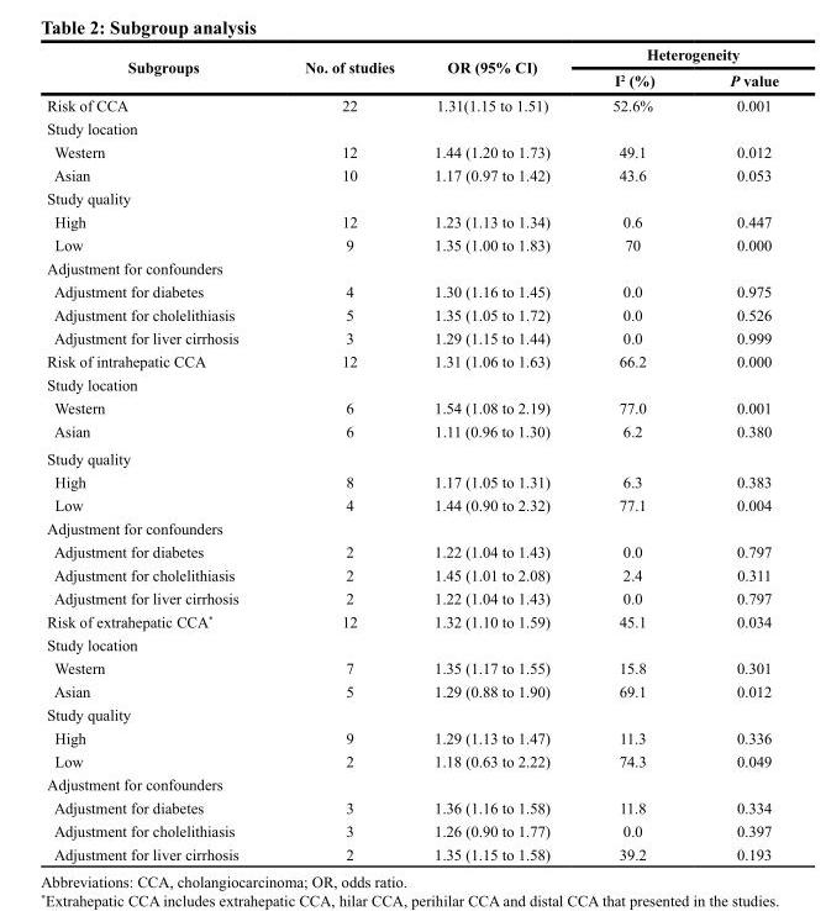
<table><thead><tr><td rowspan="2">Subgroups</td><td rowspan="2">No. of studies</td><td rowspan="2">OR (95% CI)</td><td colspan="2">Heterogeneity</td></tr><tr><td>I<sup>2</sup> (%)</td><td>P value</td></tr></thead><tbody><tr><td>Risk of CCA</td><td>22</td><td>1.31(1.15 to 1.51)</td><td>52.6%</td><td>0.001</td></tr><tr><td colspan="5">Study location</td></tr><tr><td>Western</td><td>12</td><td>1.44 (1.20 to 1.73)</td><td>49.1</td><td>0.012</td></tr><tr><td>Asian</td><td>10</td><td>1.17 (0.97 to 1.42)</td><td>43.6</td><td>0.053</td></tr><tr><td colspan="5">Study quality</td></tr><tr><td>High</td><td>12</td><td>1.23 (1.13 to 1.34)</td><td>0.6</td><td>0.447</td></tr><tr><td>Low</td><td>9</td><td>1.35 (1.00 to 1.83)</td><td>70</td><td>0.000</td></tr><tr><td colspan="5">Adjustment for confounders</td></tr><tr><td>Adjustment for diabetes</td><td>4</td><td>1.30 (1.16 to 1.45)</td><td>0.0</td><td>0.975</td></tr><tr><td>Adjustment for cholelithiasis</td><td>5</td><td>1.35 (1.05 to 1.72)</td><td>0.0</td><td>0.526</td></tr><tr><td>Adjustment for liver cirrhosis</td><td>3</td><td>1.29 (1.15 to 1.44)</td><td>0.0</td><td>0.999</td></tr><tr><td>Risk of intrahepatic CCA</td><td>12</td><td>1.31 (1.06 to 1.63)</td><td>66.2</td><td>0.000</td></tr><tr><td colspan="5">Study location</td></tr><tr><td>Western</td><td>6</td><td>1.54 (1.08 to 2.19)</td><td>77.0</td><td>0.001</td></tr><tr><td>Asian</td><td>6</td><td>1.11 (0.96 to 1.30)</td><td>6.2</td><td>0.380</td></tr><tr><td colspan="5">Study quality</td></tr><tr><td>High</td><td>8</td><td>1.17 (1.05 to 1.31)</td><td>6.3</td><td>0.383</td></tr><tr><td>Low</td><td>4</td><td>1.44 (0.90 to 2.32)</td><td>77.1</td><td>0.004</td></tr><tr><td colspan="5">Adjustment for confounders</td></tr><tr><td>Adjustment for diabetes</td><td>2</td><td>1.22 (1.04 to 1.43)</td><td>0.0</td><td>0.797</td></tr><tr><td>Adjustment for cholelithiasis</td><td>2</td><td>1.45 (1.01 to 2.08)</td><td>2.4</td><td>0.311</td></tr><tr><td>Adjustment for liver cirrhosis</td><td>2</td><td>1.22 (1.04 to 1.43)</td><td>0.0</td><td>0.797</td></tr><tr><td>Risk of extrahepatic CCA*</td><td>12</td><td>1.32 (1.10 to 1.59)</td><td>45.1</td><td>0.034</td></tr><tr><td colspan="5">Study location</td></tr><tr><td>Western</td><td>7</td><td>1.35 (1.17 to 1.55)</td><td>15.8</td><td>0.301</td></tr><tr><td>Asian</td><td>5</td><td>1.29 (0.88 to 1.90)</td><td>69.1</td><td>0.012</td></tr><tr><td colspan="5">Study quality</td></tr><tr><td>High</td><td>9</td><td>1.29 (1.13 to 1.47)</td><td>11.3</td><td>0.336</td></tr><tr><td>Low</td><td>2</td><td>1.18 (0.63 to 2.22)</td><td>74.3</td><td>0.049</td></tr><tr><td colspan="5">Adjustment for confounders</td></tr><tr><td>Adjustment for diabetes</td><td>3</td><td>1.36 (1.16 to 1.58)</td><td>11.8</td><td>0.334</td></tr><tr><td>Adjustment for cholelithiasis</td><td>3</td><td>1.26 (0.90 to 1.77)</td><td>0.0</td><td>0.397</td></tr><tr><td>Adjustment for liver cirrhosis</td><td>2</td><td>1.35 (1.15 to 1.58)</td><td>39.2</td><td>0.193</td></tr></tbody></table>